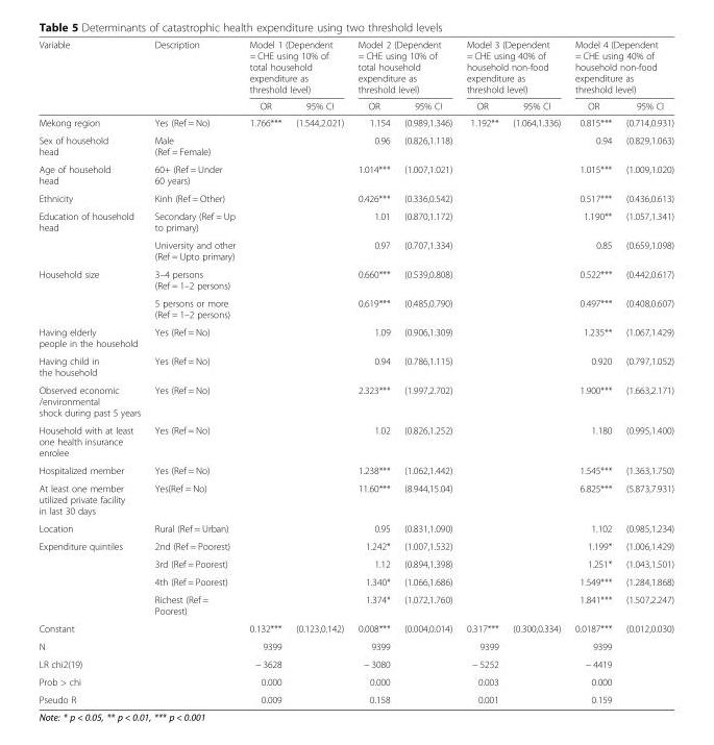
<table><thead><tr><td rowspan="2">Variable</td><td rowspan="2">Description</td><td colspan="2">Model 1 (Dependent = CHE using 10% of total household expenditure as threshold level)</td><td colspan="2">Model 2 (Dependent = CHE using 10% of total household expenditure as threshold level)</td><td colspan="2">Model 3 (Dependent = CHE using 40% of household non-food expenditure as threshold level)</td><td colspan="2">Model 4 (Dependent = CHE using 40% of household non-food expenditure as threshold level)</td></tr><tr><td>OR</td><td>95% CI</td><td>OR</td><td>95% CI</td><td>OR</td><td>95% CI</td><td>OR</td><td>95% CI</td></tr></thead><tbody><tr><td>Mekong region</td><td>Yes (Ref = No)</td><td>1.766***</td><td>(1.544,2.021)</td><td>1.154</td><td>(0.989,1.346)</td><td>1.192**</td><td>(1.064,1.336)</td><td>0.815***</td><td>(0.714,0.931)</td></tr><tr><td>Sex of household head</td><td>Male (Ref = Female)</td><td></td><td></td><td>0.96</td><td>(0.826,1.118)</td><td></td><td></td><td>0.94</td><td>(0.829,1.063)</td></tr><tr><td>Age of household head</td><td>60+ (Ref = Under 60 years)</td><td></td><td></td><td>1.014***</td><td>(1.007,1.021)</td><td></td><td></td><td>1.015***</td><td>(1.009,1.020)</td></tr><tr><td>Ethnicity</td><td>Kinh (Ref = Other)</td><td></td><td></td><td>0.426***</td><td>(0.336,0.542)</td><td></td><td></td><td>0.517***</td><td>(0.436,0.613)</td></tr><tr><td rowspan="2">Education of household head</td><td>Secondary (Ref = Up to primary)</td><td></td><td></td><td>1.01</td><td>(0.870,1.172)</td><td></td><td></td><td>1.190**</td><td>(1.057,1.341)</td></tr><tr><td>University and other (Ref = Upto primary)</td><td></td><td></td><td>0.97</td><td>(0.707,1.334)</td><td></td><td></td><td>0.85</td><td>(0.659,1.098)</td></tr><tr><td rowspan="2">Household size</td><td>3–4 persons (Ref = 1–2 persons)</td><td></td><td></td><td>0.660***</td><td>(0.539,0.808)</td><td></td><td></td><td>0.522***</td><td>(0.442,0.617)</td></tr><tr><td>5 persons or more (Ref = 1–2 persons)</td><td></td><td></td><td>0.619***</td><td>(0.485,0.790)</td><td></td><td></td><td>0.497***</td><td>(0.408,0.607)</td></tr><tr><td>Having elderly people in the household</td><td>Yes (Ref = No)</td><td></td><td></td><td>1.09</td><td>(0.906,1.309)</td><td></td><td></td><td>1.235**</td><td>(1.067,1.429)</td></tr><tr><td>Having child in the household</td><td>Yes (Ref = No)</td><td></td><td></td><td>0.94</td><td>(0.786,1.115)</td><td></td><td></td><td>0.920</td><td>(0.797,1.052)</td></tr><tr><td>Observed economic /environmental shock during past 5 years</td><td>Yes (Ref = No)</td><td></td><td></td><td>2.323***</td><td>(1.997,2.702)</td><td></td><td></td><td>1.900***</td><td>(1.663,2.171)</td></tr><tr><td>Household with at least one health insurance enrolee</td><td>Yes (Ref = No)</td><td></td><td></td><td>1.02</td><td>(0.826,1.252)</td><td></td><td></td><td>1.180</td><td>(0.995,1.400)</td></tr><tr><td>Hospitalized member</td><td>Yes (Ref = No)</td><td></td><td></td><td>1.238***</td><td>(1.062,1.442)</td><td></td><td></td><td>1.545***</td><td>(1.363,1.750)</td></tr><tr><td>At least one member utilized private facility in last 30 days</td><td>Yes(Ref = No)</td><td></td><td></td><td>11.60***</td><td>(8.944,15.04)</td><td></td><td></td><td>6.825***</td><td>(5.873,7.931)</td></tr><tr><td>Location</td><td>Rural (Ref = Urban)</td><td></td><td></td><td>0.95</td><td>(0.831,1.090)</td><td></td><td></td><td>1.102</td><td>(0.985,1.234)</td></tr><tr><td rowspan="4">Expenditure quintiles</td><td>2nd (Ref = Poorest)</td><td></td><td></td><td>1.242*</td><td>(1.007,1.532)</td><td></td><td></td><td>1.199*</td><td>(1.006,1.429)</td></tr><tr><td>3rd (Ref = Poorest)</td><td></td><td></td><td>1.12</td><td>(0.894,1.398)</td><td></td><td></td><td>1.251*</td><td>(1.043,1.501)</td></tr><tr><td>4th (Ref = Poorest)</td><td></td><td></td><td>1.340*</td><td>(1.066,1.686)</td><td></td><td></td><td>1.549***</td><td>(1.284,1.868)</td></tr><tr><td>Richest (Ref = Poorest)</td><td></td><td></td><td>1.374*</td><td>(1.072,1.760)</td><td></td><td></td><td>1.841***</td><td>(1.507,2.247)</td></tr><tr><td>Constant</td><td></td><td>0.132***</td><td>(0.123,0.142)</td><td>0.008***</td><td>(0.004,0.014)</td><td>0.317***</td><td>(0.300,0.334)</td><td>0.0187***</td><td>(0.012,0.030)</td></tr><tr><td>N</td><td></td><td>9399</td><td></td><td>9399</td><td></td><td>9399</td><td></td><td>9399</td><td></td></tr><tr><td>LR chi2(19)</td><td></td><td>− 3628</td><td></td><td>− 3080</td><td></td><td>− 5252</td><td></td><td>− 4419</td><td></td></tr><tr><td>Prob &gt; chi</td><td></td><td>0.000</td><td></td><td>0.000</td><td></td><td>0.003</td><td></td><td>0.000</td><td></td></tr><tr><td>Pseudo R</td><td></td><td>0.009</td><td></td><td>0.158</td><td></td><td>0.001</td><td></td><td>0.159</td><td></td></tr></tbody></table>